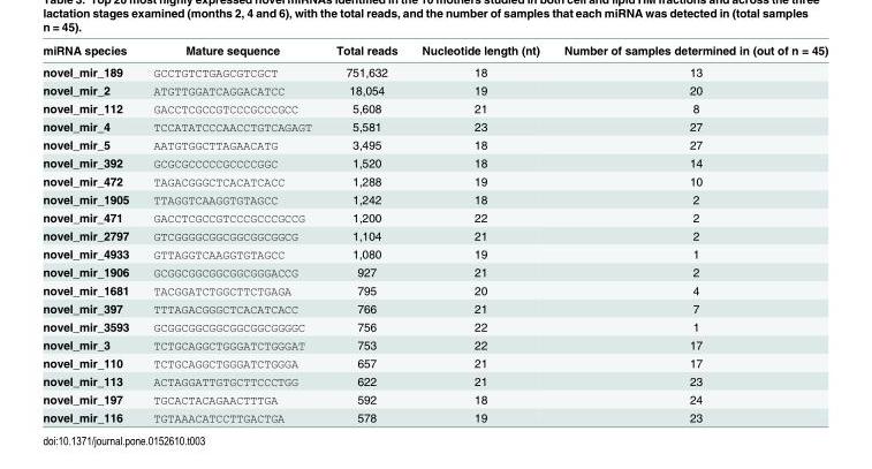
<table><thead><tr><td>miRNA species</td><td>Mature sequence</td><td>Total reads</td><td>Nucleotide length (nt)</td><td>Number of samples determined in (out of n = 45)</td></tr></thead><tbody><tr><td>novel_mir_189</td><td>GCCTGTCTGAGCGTCGCT</td><td>751,632</td><td>18</td><td>13</td></tr><tr><td>novel_mir_2</td><td>ATGTTGGATCAGGACATCC</td><td>18,054</td><td>19</td><td>20</td></tr><tr><td>novel_mir_112</td><td>GACCTCGCCGTCCCGCCCGCC</td><td>5,608</td><td>21</td><td>8</td></tr><tr><td>novel_mir_4</td><td>TCCATATCCCAACCTGTCAGAGT</td><td>5,581</td><td>23</td><td>27</td></tr><tr><td>novel_mir_5</td><td>AATGTGGCTTAGAACATG</td><td>3,495</td><td>18</td><td>27</td></tr><tr><td>novel_mir_392</td><td>GCGCGCCCCCGCCCCGGC</td><td>1,520</td><td>18</td><td>14</td></tr><tr><td>novel_mir_472</td><td>TAGACGGGCTCACATCACC</td><td>1,288</td><td>19</td><td>10</td></tr><tr><td>novel_mir_1905</td><td>TTAGGTCAAGGTGTAGCC</td><td>1,242</td><td>18</td><td>2</td></tr><tr><td>novel_mir_471</td><td>GACCTCGCCGTCCCGCCCGCCG</td><td>1,200</td><td>22</td><td>2</td></tr><tr><td>novel_mir_2797</td><td>GTCGGGGCGGCGGCGGCGGCG</td><td>1,104</td><td>21</td><td>2</td></tr><tr><td>novel_mir_4933</td><td>GTTAGGTCAAGGTGTAGCC</td><td>1,080</td><td>19</td><td>1</td></tr><tr><td>novel_mir_1906</td><td>GCGGCGGCGGCGGCGGGACCG</td><td>927</td><td>21</td><td>2</td></tr><tr><td>novel_mir_1681</td><td>TACGGATCTGGCTTCTGAGA</td><td>795</td><td>20</td><td>4</td></tr><tr><td>novel_mir_397</td><td>TTTAGACGGGCTCACATCACC</td><td>766</td><td>21</td><td>7</td></tr><tr><td>novel_mir_3593</td><td>GCGGCGGCGGCGGCGGCGGGGC</td><td>756</td><td>22</td><td>1</td></tr><tr><td>novel_mir_3</td><td>TCTGCAGGCTGGGATCTGGGAT</td><td>753</td><td>22</td><td>17</td></tr><tr><td>novel_mir_110</td><td>TCTGCAGGCTGGGATCTGGGA</td><td>657</td><td>21</td><td>17</td></tr><tr><td>novel_mir_113</td><td>ACTAGGATTGTGCTTCCCTGG</td><td>622</td><td>21</td><td>23</td></tr><tr><td>novel_mir_197</td><td>TGCACTACAGAACTTTGA</td><td>592</td><td>18</td><td>24</td></tr><tr><td>novel_mir_116</td><td>TGTAAACATCCTTGACTGA</td><td>578</td><td>19</td><td>23</td></tr></tbody></table>